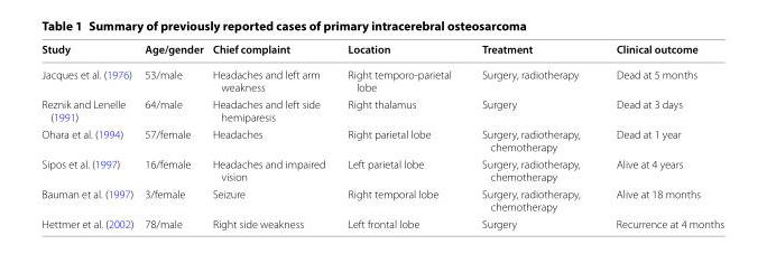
<table><thead><tr><td>Study</td><td>Age/gender</td><td>Chief complaint</td><td>Location</td><td>Treatment</td><td>Clinical outcome</td></tr></thead><tbody><tr><td>Jacques et al. (1976)</td><td>53/male</td><td>Headaches and left arm weakness</td><td>Right temporo‑parietal lobe</td><td>Surgery, radiotherapy</td><td>Dead at 5 months</td></tr><tr><td>Reznik and Lenelle (1991)</td><td>64/male</td><td>Headaches and left side hemiparesis</td><td>Right thalamus</td><td>Surgery</td><td>Dead at 3 days</td></tr><tr><td>Ohara et al. (1994)</td><td>57/female</td><td>Headaches</td><td>Right parietal lobe</td><td>Surgery, radiotherapy, chemotherapy</td><td>Dead at 1 year</td></tr><tr><td>Sipos et al. (1997)</td><td>16/female</td><td>Headaches and impaired vision</td><td>Left parietal lobe</td><td>Surgery, radiotherapy, chemotherapy</td><td>Alive at 4 years</td></tr><tr><td>Bauman et al. (1997)</td><td>3/female</td><td>Seizure</td><td>Right temporal lobe</td><td>Surgery, radiotherapy, chemotherapy</td><td>Alive at 18 months</td></tr><tr><td>Hettmer et al. (2002)</td><td>78/male</td><td>Right side weakness</td><td>Left frontal lobe</td><td>Surgery</td><td>Recurrence at 4 months</td></tr></tbody></table>